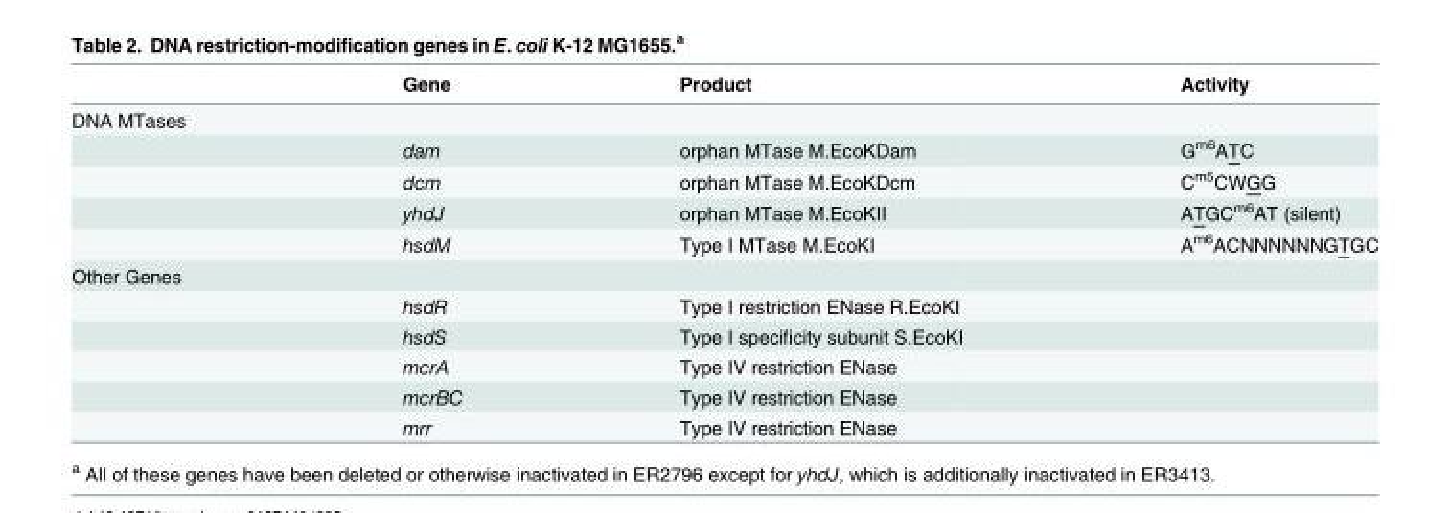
<table><thead><tr><td></td><td>Gene</td><td>Product</td><td>Activity</td></tr></thead><tbody><tr><td colspan="4">DNA MTases</td></tr><tr><td></td><td>dam</td><td>orphan MTase M.EcoKDam</td><td>G<sup>m6</sup>ATC</td></tr><tr><td></td><td>dcm</td><td>orphan MTase M.EcoKDcm</td><td>C<sup>m5</sup>CWGG</td></tr><tr><td></td><td>yhdJ</td><td>orphan MTase M.EcoKII</td><td>ATGC<sup>m6</sup>AT (silent)</td></tr><tr><td></td><td>hsdM</td><td>Type I MTase M.EcoKI</td><td>A<sup>m6</sup>ACNNNNNNGTGC</td></tr><tr><td colspan="4">Other Genes</td></tr><tr><td></td><td>hsdR</td><td>Type I restriction ENase R.EcoKI</td><td></td></tr><tr><td></td><td>hsdS</td><td>Type I specificity subunit S.EcoKI</td><td></td></tr><tr><td></td><td>mcrA</td><td>Type IV restriction ENase</td><td></td></tr><tr><td></td><td>mcrBC</td><td>Type IV restriction ENase</td><td></td></tr><tr><td></td><td>mrr</td><td>Type IV restriction ENase</td><td></td></tr></tbody></table>